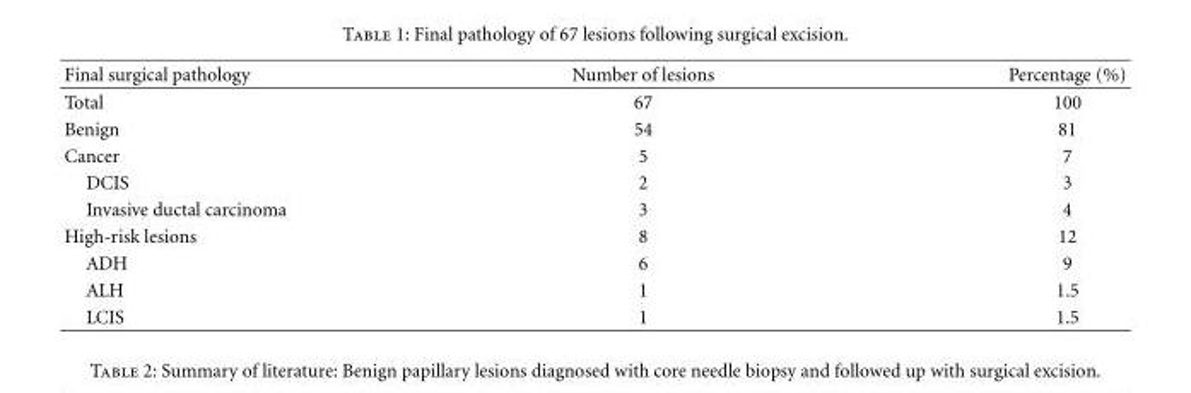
<table><thead><tr><td>Final surgical pathology</td><td>Number of lesions</td><td>Percentage (%)</td></tr></thead><tbody><tr><td>Total</td><td>67</td><td>100</td></tr><tr><td>Benign</td><td>54</td><td>81</td></tr><tr><td>Cancer</td><td>5</td><td>7</td></tr><tr><td>DCIS</td><td>2</td><td>3</td></tr><tr><td>Invasive ductal carcinoma</td><td>3</td><td>4</td></tr><tr><td>High-risk lesions</td><td>8</td><td>12</td></tr><tr><td>ADH</td><td>6</td><td>9</td></tr><tr><td>ALH</td><td>1</td><td>1.5</td></tr><tr><td>LCIS</td><td>1</td><td>1.5</td></tr></tbody></table>